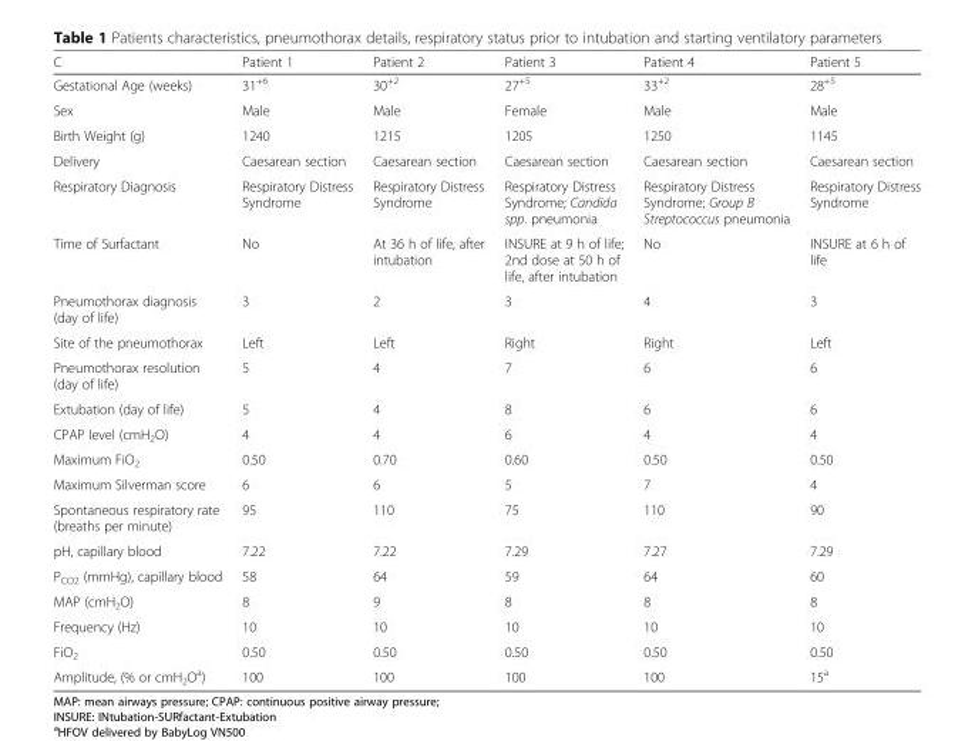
<table><thead><tr><td>C</td><td>Patient 1</td><td>Patient 2</td><td>Patient 3</td><td>Patient 4</td><td>Patient 5</td></tr></thead><tbody><tr><td>Gestational Age (weeks)</td><td>31<sup>+6</sup></td><td>30<sup>+2</sup></td><td>27<sup>+5</sup></td><td>33<sup>+2</sup></td><td>28<sup>+5</sup></td></tr><tr><td>Sex</td><td>Male</td><td>Male</td><td>Female</td><td>Male</td><td>Male</td></tr><tr><td>Birth Weight (g)</td><td>1240</td><td>1215</td><td>1205</td><td>1250</td><td>1145</td></tr><tr><td>Delivery</td><td>Caesarean section</td><td>Caesarean section</td><td>Caesarean section</td><td>Caesarean section</td><td>Caesarean section</td></tr><tr><td>Respiratory Diagnosis</td><td>Respiratory Distress Syndrome</td><td>Respiratory Distress Syndrome</td><td>Respiratory Distress Syndrome; Candida spp. pneumonia</td><td>Respiratory Distress Syndrome; Group B Streptococcus pneumonia</td><td>Respiratory Distress Syndrome</td></tr><tr><td>Time of Surfactant</td><td>No</td><td>At 36 h of life, after intubation</td><td>INSURE at 9 h of life; 2nd dose at 50 h of life, after intubation</td><td>No</td><td>INSURE at 6 h of life</td></tr><tr><td>Pneumothorax diagnosis (day of life)</td><td>3</td><td>2</td><td>3</td><td>4</td><td>3</td></tr><tr><td>Site of the pneumothorax</td><td>Left</td><td>Left</td><td>Right</td><td>Right</td><td>Left</td></tr><tr><td>Pneumothorax resolution (day of life)</td><td>5</td><td>4</td><td>7</td><td>6</td><td>6</td></tr><tr><td>Extubation (day of life)</td><td>5</td><td>4</td><td>8</td><td>6</td><td>6</td></tr><tr><td>CPAP level (cmH<sub>2</sub>O)</td><td>4</td><td>4</td><td>6</td><td>4</td><td>4</td></tr><tr><td>Maximum FiO<sub>2</sub></td><td>0.50</td><td>0.70</td><td>0.60</td><td>0.50</td><td>0.50</td></tr><tr><td>Maximum Silverman score</td><td>6</td><td>6</td><td>5</td><td>7</td><td>4</td></tr><tr><td>Spontaneous respiratory rate (breaths per minute)</td><td>95</td><td>110</td><td>75</td><td>110</td><td>90</td></tr><tr><td>pH, capillary blood</td><td>7.22</td><td>7.22</td><td>7.29</td><td>7.27</td><td>7.29</td></tr><tr><td>P<sub>CO2</sub> (mmHg), capillary blood</td><td>58</td><td>64</td><td>59</td><td>64</td><td>60</td></tr><tr><td>MAP (cmH<sub>2</sub>O)</td><td>8</td><td>9</td><td>8</td><td>8</td><td>8</td></tr><tr><td>Frequency (Hz)</td><td>10</td><td>10</td><td>10</td><td>10</td><td>10</td></tr><tr><td>FiO<sub>2</sub></td><td>0.50</td><td>0.50</td><td>0.50</td><td>0.50</td><td>0.50</td></tr><tr><td>Amplitude, (% or cmH<sub>2</sub>O<sup>a</sup>)</td><td>100</td><td>100</td><td>100</td><td>100</td><td>15<sup>a</sup></td></tr></tbody></table>